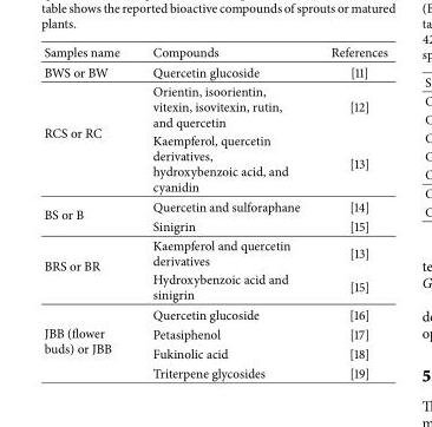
<table><thead><tr><td>Samples name</td><td>Compounds</td><td>References</td></tr></thead><tbody><tr><td>BWS or BW</td><td>Quercetin glucoside</td><td>[11]</td></tr><tr><td rowspan="2">RCS or RC</td><td>Orientin, isoorientin, vitexin, isovitexin, rutin, and quercetin</td><td>[12]</td></tr><tr><td>Kaempferol, quercetin derivatives, hydroxybenzoic acid, and cyanidin</td><td>[13]</td></tr><tr><td rowspan="2">BS or B</td><td>Quercetin and sulforaphane</td><td>[14]</td></tr><tr><td>Sinigrin</td><td>[15]</td></tr><tr><td rowspan="2">BRS or BR</td><td>Kaempferol and quercetin derivatives</td><td>[13]</td></tr><tr><td>Hydroxybenzoic acid and sinigrin</td><td>[15]</td></tr><tr><td rowspan="4">JBB (flower buds) or JBB</td><td>Quercetin glucoside</td><td>[16]</td></tr><tr><td>Petasiphenol</td><td>[17]</td></tr><tr><td>Fukinolic acid</td><td>[18]</td></tr><tr><td>Triterpene glycosides</td><td>[19]</td></tr></tbody></table>